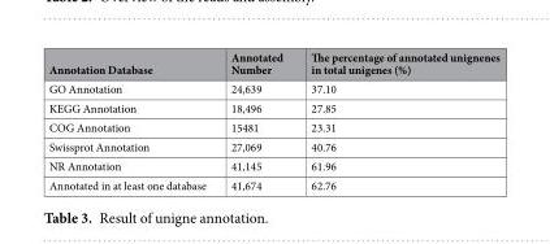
<table><thead><tr><td>Annotation Database</td><td>Annotated Number</td><td>The percentage of annotated unignenes in total unigenes (%)</td></tr></thead><tbody><tr><td>GO Annotation</td><td>24,639</td><td>37.10</td></tr><tr><td>KEGG Annotation</td><td>18,496</td><td>27.85</td></tr><tr><td>COG Annotation</td><td>15481</td><td>23.31</td></tr><tr><td>Swissprot Annotation</td><td>27,069</td><td>40.76</td></tr><tr><td>NR Annotation</td><td>41,145</td><td>61.96</td></tr><tr><td>Annotated in at least one database</td><td>41,674</td><td>62.76</td></tr></tbody></table>